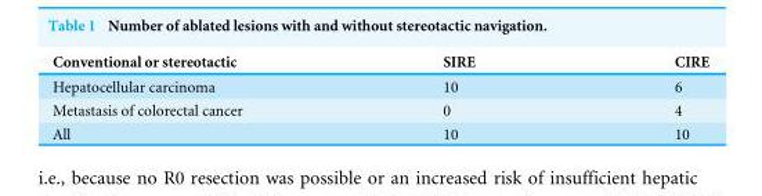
<table><thead><tr><td>Conventional or stereotactic</td><td>SIRE</td><td>CIRE</td></tr></thead><tbody><tr><td>Hepatocellular carcinoma</td><td>10</td><td>6</td></tr><tr><td>Metastasis of colorectal cancer</td><td>0</td><td>4</td></tr><tr><td>All</td><td>10</td><td>10</td></tr></tbody></table>